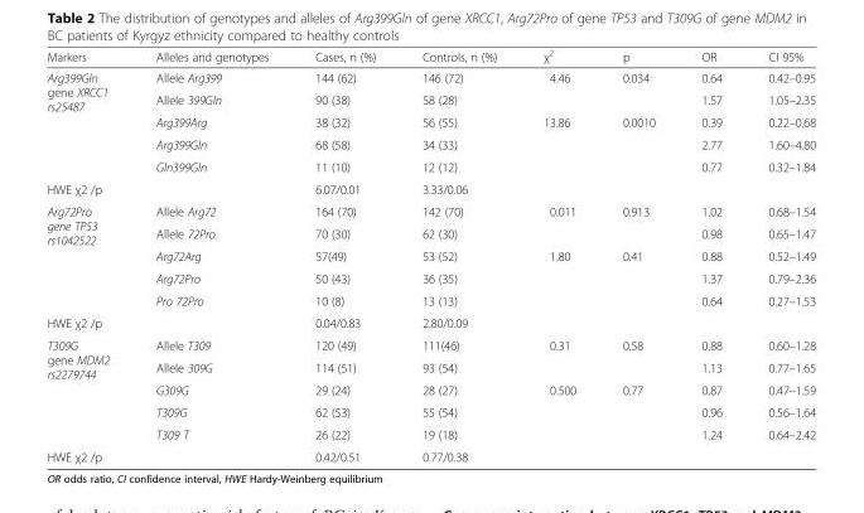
<table><thead><tr><td>Markers</td><td>Alleles and genotypes</td><td>Cases, n (%)</td><td>Controls, n (%)</td><td>χ<sup>2</sup></td><td>р</td><td>OR</td><td>CI 95%</td></tr></thead><tbody><tr><td rowspan="5">Arg399Gln gene XRCC1 rs25487</td><td>Allele Arg399</td><td>144 (62)</td><td>146 (72)</td><td rowspan="2">4.46</td><td rowspan="2">0.034</td><td>0.64</td><td>0.42–0.95</td></tr><tr><td>Allele 399Gln</td><td>90 (38)</td><td>58 (28)</td><td>1.57</td><td>1.05–2.35</td></tr><tr><td>Arg399Arg</td><td>38 (32)</td><td>56 (55)</td><td rowspan="3">13.86</td><td rowspan="3">0.0010</td><td>0.39</td><td>0.22–0.68</td></tr><tr><td>Arg399Gln</td><td>68 (58)</td><td>34 (33)</td><td>2.77</td><td>1.60–4.80</td></tr><tr><td>Gln399Gln</td><td>11 (10)</td><td>12 (12)</td><td>0.77</td><td>0.32–1.84</td></tr><tr><td colspan="2">HWE χ2 /р</td><td>6.07/0.01</td><td>3.33/0.06</td><td colspan="4"></td></tr><tr><td rowspan="5">Arg72Pro gene TP53 rs1042522</td><td>Allele Arg72</td><td>164 (70)</td><td>142 (70)</td><td rowspan="2">0.011</td><td rowspan="2">0.913</td><td>1.02</td><td>0.68–1.54</td></tr><tr><td>Allele 72Pro</td><td>70 (30)</td><td>62 (30)</td><td>0.98</td><td>0.65–1.47</td></tr><tr><td>Arg72Arg</td><td>57(49)</td><td>53 (52)</td><td rowspan="3">1.80</td><td rowspan="3">0.41</td><td>0.88</td><td>0.52–1.49</td></tr><tr><td>Arg72Pro</td><td>50 (43)</td><td>36 (35)</td><td>1.37</td><td>0.79–2.36</td></tr><tr><td>Pro 72Pro</td><td>10 (8)</td><td>13 (13)</td><td>0.64</td><td>0.27–1.53</td></tr><tr><td colspan="2">HWE χ2 /р</td><td>0.04/0.83</td><td>2.80/0.09</td><td colspan="4"></td></tr><tr><td rowspan="5">T309G gene MDM2 rs2279744</td><td>Allele T309</td><td>120 (49)</td><td>111(46)</td><td rowspan="2">0.31</td><td rowspan="2">0.58</td><td>0.88</td><td>0.60–1.28</td></tr><tr><td>Allele 309G</td><td>114 (51)</td><td>93 (54)</td><td>1.13</td><td>0.77–1.65</td></tr><tr><td>G309G</td><td>29 (24)</td><td>28 (27)</td><td rowspan="3">0.500</td><td rowspan="3">0.77</td><td>0.87</td><td>0.47–1.59</td></tr><tr><td>T309G</td><td>62 (53)</td><td>55 (54)</td><td>0.96</td><td>0.56–1.64</td></tr><tr><td>T309 T</td><td>26 (22)</td><td>19 (18)</td><td>1.24</td><td>0.64–2.42</td></tr><tr><td colspan="2">HWE χ2 /р</td><td>0.42/0.51</td><td>0.77/0.38</td><td colspan="4"></td></tr></tbody></table>